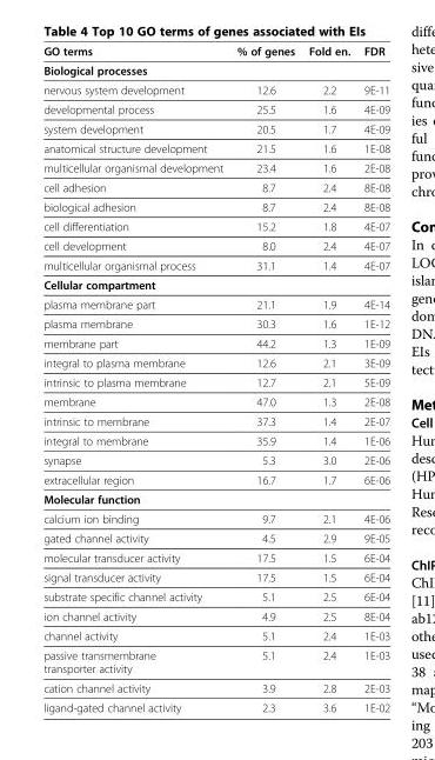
<table><thead><tr><td>GO terms</td><td>% of genes</td><td>Fold en.</td><td>FDR</td></tr></thead><tbody><tr><td colspan="4">Biological processes</td></tr><tr><td>nervous system development</td><td>12.6</td><td>2.2</td><td>9E-11</td></tr><tr><td>developmental process</td><td>25.5</td><td>1.6</td><td>4E-09</td></tr><tr><td>system development</td><td>20.5</td><td>1.7</td><td>4E-09</td></tr><tr><td>anatomical structure development</td><td>21.5</td><td>1.6</td><td>1E-08</td></tr><tr><td>multicellular organismal development</td><td>23.4</td><td>1.6</td><td>2E-08</td></tr><tr><td>cell adhesion</td><td>8.7</td><td>2.4</td><td>8E-08</td></tr><tr><td>biological adhesion</td><td>8.7</td><td>2.4</td><td>8E-08</td></tr><tr><td>cell differentiation</td><td>15.2</td><td>1.8</td><td>4E-07</td></tr><tr><td>cell development</td><td>8.0</td><td>2.4</td><td>4E-07</td></tr><tr><td>multicellular organismal process</td><td>31.1</td><td>1.4</td><td>4E-07</td></tr><tr><td colspan="4">Cellular compartment</td></tr><tr><td>plasma membrane part</td><td>21.1</td><td>1.9</td><td>4E-14</td></tr><tr><td>plasma membrane</td><td>30.3</td><td>1.6</td><td>1E-12</td></tr><tr><td>membrane part</td><td>44.2</td><td>1.3</td><td>1E-09</td></tr><tr><td>integral to plasma membrane</td><td>12.6</td><td>2.1</td><td>3E-09</td></tr><tr><td>intrinsic to plasma membrane</td><td>12.7</td><td>2.1</td><td>5E-09</td></tr><tr><td>membrane</td><td>47.0</td><td>1.3</td><td>2E-08</td></tr><tr><td>intrinsic to membrane</td><td>37.3</td><td>1.4</td><td>2E-07</td></tr><tr><td>integral to membrane</td><td>35.9</td><td>1.4</td><td>1E-06</td></tr><tr><td>synapse</td><td>5.3</td><td>3.0</td><td>2E-06</td></tr><tr><td>extracellular region</td><td>16.7</td><td>1.7</td><td>6E-06</td></tr><tr><td colspan="4">Molecular function</td></tr><tr><td>calcium ion binding</td><td>9.7</td><td>2.1</td><td>4E-06</td></tr><tr><td>gated channel activity</td><td>4.5</td><td>2.9</td><td>9E-05</td></tr><tr><td>molecular transducer activity</td><td>17.5</td><td>1.5</td><td>6E-04</td></tr><tr><td>signal transducer activity</td><td>17.5</td><td>1.5</td><td>6E-04</td></tr><tr><td>substrate specific channel activity</td><td>5.1</td><td>2.5</td><td>6E-04</td></tr><tr><td>ion channel activity</td><td>4.9</td><td>2.5</td><td>8E-04</td></tr><tr><td>channel activity</td><td>5.1</td><td>2.4</td><td>1E-03</td></tr><tr><td>passive transmembrane transporter activity</td><td>5.1</td><td>2.4</td><td>1E-03</td></tr><tr><td>cation channel activity</td><td>3.9</td><td>2.8</td><td>2E-03</td></tr><tr><td>ligand-gated channel activity</td><td>2.3</td><td>3.6</td><td>1E-02</td></tr></tbody></table>